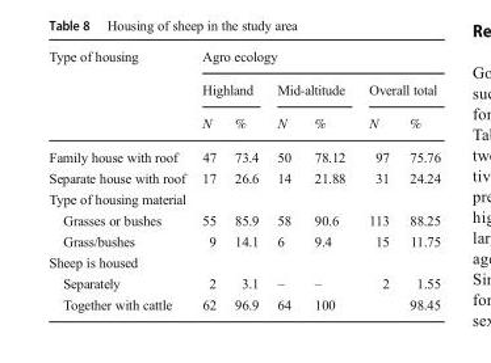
<table><thead><tr><td rowspan="3">Type of housing</td><td colspan="6">Agro ecology</td></tr><tr><td colspan="2">Highland</td><td colspan="2">Mid-altitude</td><td colspan="2">Overall total</td></tr><tr><td>N</td><td>%</td><td>N</td><td>%</td><td>N</td><td>%</td></tr></thead><tbody><tr><td>Family house with roof</td><td>47</td><td>73.4</td><td>50</td><td>78.12</td><td>97</td><td>75.76</td></tr><tr><td>Separate house with roof</td><td>17</td><td>26.6</td><td>14</td><td>21.88</td><td>31</td><td>24.24</td></tr><tr><td colspan="7">Type of housing material</td></tr><tr><td>Grasses or bushes</td><td>55</td><td>85.9</td><td>58</td><td>90.6</td><td>113</td><td>88.25</td></tr><tr><td>Grass/bushes</td><td>9</td><td>14.1</td><td>6</td><td>9.4</td><td>15</td><td>11.75</td></tr><tr><td colspan="7">Sheep is housed</td></tr><tr><td>Separately</td><td>2</td><td>3.1</td><td>–</td><td>–</td><td>2</td><td>1.55</td></tr><tr><td>Together with cattle</td><td>62</td><td>96.9</td><td>64</td><td>100</td><td></td><td>98.45</td></tr></tbody></table>